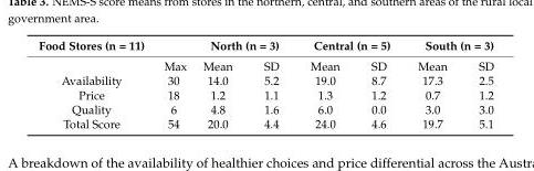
<table><thead><tr><td rowspan="2">Food Stores (n = 11)</td><td rowspan="2">Max</td><td colspan="2">North (n = 3)</td><td colspan="2">Central (n = 5)</td><td colspan="2">South (n = 3)</td></tr><tr><td>Mean</td><td>SD</td><td>Mean</td><td>SD</td><td>Mean</td><td>SD</td></tr></thead><tbody><tr><td>Availability</td><td>30</td><td>14.0</td><td>5.2</td><td>19.0</td><td>8.7</td><td>17.3</td><td>2.5</td></tr><tr><td>Price</td><td>18</td><td>1.2</td><td>1.1</td><td>1.3</td><td>1.2</td><td>0.7</td><td>1.2</td></tr><tr><td>Quality</td><td>6</td><td>4.8</td><td>1.6</td><td>6.0</td><td>0.0</td><td>3.0</td><td>3.0</td></tr><tr><td>Total Score</td><td>54</td><td>20.0</td><td>4.4</td><td>24.0</td><td>4.6</td><td>19.7</td><td>5.1</td></tr></tbody></table>